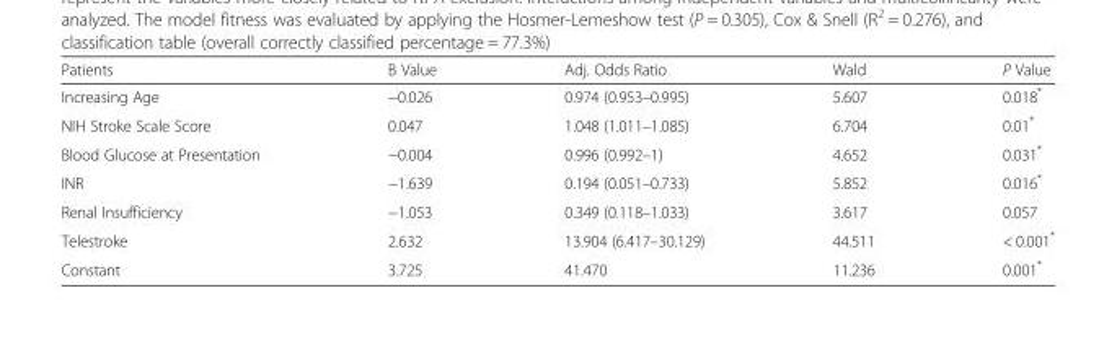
<table><thead><tr><td>Patients</td><td>B Value</td><td>Adj. Odds Ratio</td><td>Wald</td><td>P Value</td></tr></thead><tbody><tr><td>Increasing Age</td><td>−0.026</td><td>0.974 (0.953–0.995)</td><td>5.607</td><td>0.018*</td></tr><tr><td>NIH Stroke Scale Score</td><td>0.047</td><td>1.048 (1.011–1.085)</td><td>6.704</td><td>0.01*</td></tr><tr><td>Blood Glucose at Presentation</td><td>−0.004</td><td>0.996 (0.992–1)</td><td>4.652</td><td>0.031*</td></tr><tr><td>INR</td><td>−1.639</td><td>0.194 (0.051–0.733)</td><td>5.852</td><td>0.016*</td></tr><tr><td>Renal Insufficiency</td><td>−1.053</td><td>0.349 (0.118–1.033)</td><td>3.617</td><td>0.057</td></tr><tr><td>Telestroke</td><td>2.632</td><td>13.904 (6.417–30.129)</td><td>44.511</td><td>&lt; 0.001*</td></tr><tr><td>Constant</td><td>3.725</td><td>41.470</td><td>11.236</td><td>0.001*</td></tr></tbody></table>